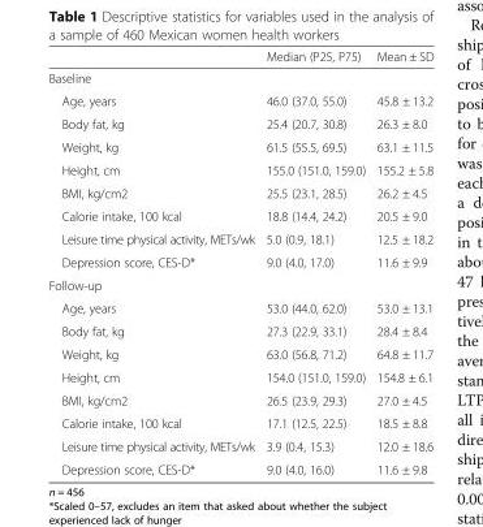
<table><thead><tr><td></td><td>Median (P25, P75)</td><td>Mean ± SD</td></tr></thead><tbody><tr><td colspan="3">Baseline</td></tr><tr><td>Age, years</td><td>46.0 (37.0, 55.0)</td><td>45.8 ± 13.2</td></tr><tr><td>Body fat, kg</td><td>25.4 (20.7, 30.8)</td><td>26.3 ± 8.0</td></tr><tr><td>Weight, kg</td><td>61.5 (55.5, 69.5)</td><td>63.1 ± 11.5</td></tr><tr><td>Height, cm</td><td>155.0 (151.0, 159.0)</td><td>155.2 ± 5.8</td></tr><tr><td>BMI, kg/cm2</td><td>25.5 (23.1, 28.5)</td><td>26.2 ± 4.5</td></tr><tr><td>Calorie intake, 100 kcal</td><td>18.8 (14.4, 24.2)</td><td>20.5 ± 9.0</td></tr><tr><td>Leisure time physical activity, METs/wk</td><td>5.0 (0.9, 18.1)</td><td>12.5 ± 18.2</td></tr><tr><td>Depression score, CES-D*</td><td>9.0 (4.0, 17.0)</td><td>11.6 ± 9.9</td></tr><tr><td colspan="3">Follow-up</td></tr><tr><td>Age, years</td><td>53.0 (44.0, 62.0)</td><td>53.0 ± 13.1</td></tr><tr><td>Body fat, kg</td><td>27.3 (22.9, 33.1)</td><td>28.4 ± 8.4</td></tr><tr><td>Weight, kg</td><td>63.0 (56.8, 71.2)</td><td>64.8 ± 11.7</td></tr><tr><td>Height, cm</td><td>154.0 (151.0, 159.0)</td><td>154.8 ± 6.1</td></tr><tr><td>BMI, kg/cm2</td><td>26.5 (23.9, 29.3)</td><td>27.0 ± 4.5</td></tr><tr><td>Calorie intake, 100 kcal</td><td>17.1 (12.5, 22.5)</td><td>18.5 ± 8.8</td></tr><tr><td>Leisure time physical activity, METs/wk</td><td>3.9 (0.4, 15.3)</td><td>12.0 ± 18.6</td></tr><tr><td>Depression score, CES-D*</td><td>9.0 (4.0, 16.0)</td><td>11.6 ± 9.8</td></tr></tbody></table>